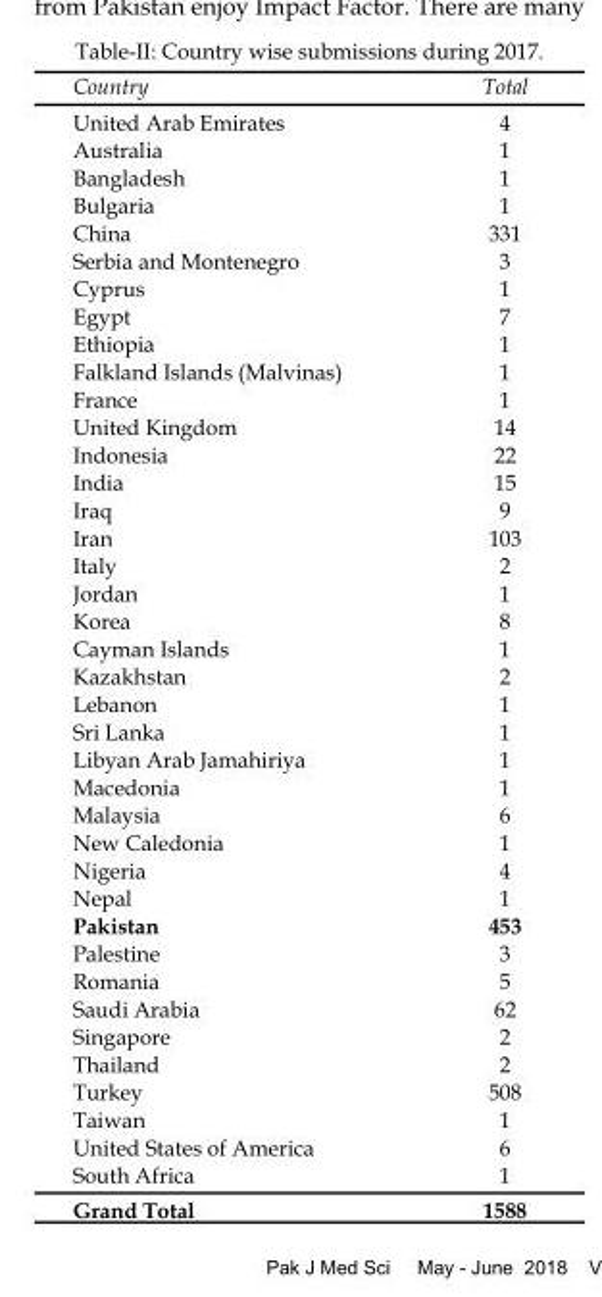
<table><thead><tr><td>Country</td><td>Total</td></tr></thead><tbody><tr><td>United Arab Emirates</td><td>4</td></tr><tr><td>Australia</td><td>1</td></tr><tr><td>Bangladesh</td><td>1</td></tr><tr><td>Bulgaria</td><td>1</td></tr><tr><td>China</td><td>331</td></tr><tr><td>Serbia and Montenegro</td><td>3</td></tr><tr><td>Cyprus</td><td>1</td></tr><tr><td>Egypt</td><td>7</td></tr><tr><td>Ethiopia</td><td>1</td></tr><tr><td>Falkland Islands (Malvinas)</td><td>1</td></tr><tr><td>France</td><td>1</td></tr><tr><td>United Kingdom</td><td>14</td></tr><tr><td>Indonesia</td><td>22</td></tr><tr><td>India</td><td>15</td></tr><tr><td>Iraq</td><td>9</td></tr><tr><td>Iran</td><td>103</td></tr><tr><td>Italy</td><td>2</td></tr><tr><td>Jordan</td><td>1</td></tr><tr><td>Korea</td><td>8</td></tr><tr><td>Cayman Islands</td><td>1</td></tr><tr><td>Kazakhstan</td><td>2</td></tr><tr><td>Lebanon</td><td>1</td></tr><tr><td>Sri Lanka</td><td>1</td></tr><tr><td>Libyan Arab Jamahiriya</td><td>1</td></tr><tr><td>Macedonia</td><td>1</td></tr><tr><td>Malaysia</td><td>6</td></tr><tr><td>New Caledonia</td><td>1</td></tr><tr><td>Nigeria</td><td>4</td></tr><tr><td>Nepal</td><td>1</td></tr><tr><td>Pakistan</td><td>453</td></tr><tr><td>Palestine</td><td>3</td></tr><tr><td>Romania</td><td>5</td></tr><tr><td>Saudi Arabia</td><td>62</td></tr><tr><td>Singapore</td><td>2</td></tr><tr><td>Thailand</td><td>2</td></tr><tr><td>Turkey</td><td>508</td></tr><tr><td>Taiwan</td><td>1</td></tr><tr><td>United States of America</td><td>6</td></tr><tr><td>South Africa</td><td>1</td></tr><tr><td>Grand Total</td><td>1588</td></tr></tbody></table>